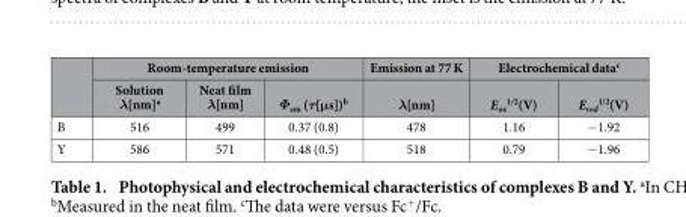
<table><thead><tr><td rowspan="2"></td><td colspan="3">Room-temperature emission</td><td rowspan="2">Emission at 77 K λ[nm]</td><td colspan="2">Electrochemical data<sup>c</sup></td></tr><tr><td>Solution λ[nm]<sup>a</sup></td><td>Neat film λ[nm]</td><td>Φ<sub>em</sub> (τ[μs])<sup>b</sup></td><td>E<sub>ox</sub> <sup>1/2</sup>(V)</td><td>E<sub>red</sub> <sup>1/2</sup>(V)</td></tr></thead><tbody><tr><td>B</td><td>516</td><td>499</td><td>0.37 (0.8)</td><td>478</td><td>1.16</td><td>− 1.92</td></tr><tr><td>Y</td><td>586</td><td>571</td><td>0.48 (0.5)</td><td>518</td><td>0.79</td><td>− 1.96</td></tr></tbody></table>